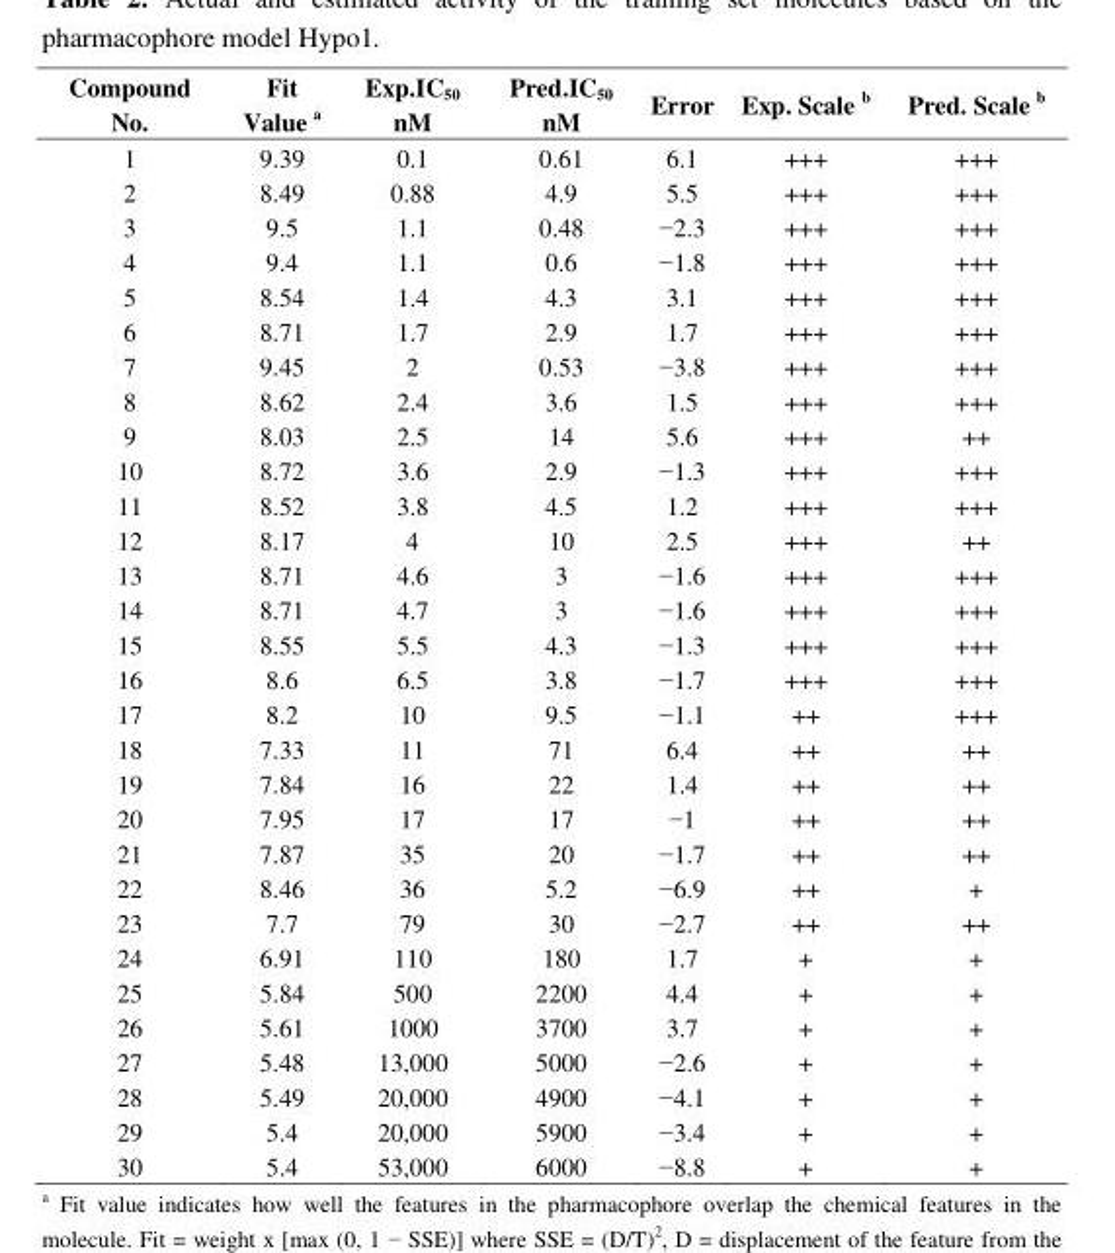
<table><thead><tr><td>Compound No.</td><td>Fit Value a</td><td>Exp.IC<sub>50</sub> nM</td><td>Pred.IC<sub>50</sub> nM</td><td>Error</td><td>Exp. Scale b</td><td>Pred. Scale b</td></tr></thead><tbody><tr><td>1</td><td>9.39</td><td>0.1</td><td>0.61</td><td>6.1</td><td>+++</td><td>+++</td></tr><tr><td>2</td><td>8.49</td><td>0.88</td><td>4.9</td><td>5.5</td><td>+++</td><td>+++</td></tr><tr><td>3</td><td>9.5</td><td>1.1</td><td>0.48</td><td>−2.3</td><td>+++</td><td>+++</td></tr><tr><td>4</td><td>9.4</td><td>1.1</td><td>0.6</td><td>−1.8</td><td>+++</td><td>+++</td></tr><tr><td>5</td><td>8.54</td><td>1.4</td><td>4.3</td><td>3.1</td><td>+++</td><td>+++</td></tr><tr><td>6</td><td>8.71</td><td>1.7</td><td>2.9</td><td>1.7</td><td>+++</td><td>+++</td></tr><tr><td>7</td><td>9.45</td><td>2</td><td>0.53</td><td>−3.8</td><td>+++</td><td>+++</td></tr><tr><td>8</td><td>8.62</td><td>2.4</td><td>3.6</td><td>1.5</td><td>+++</td><td>+++</td></tr><tr><td>9</td><td>8.03</td><td>2.5</td><td>14</td><td>5.6</td><td>+++</td><td>++</td></tr><tr><td>10</td><td>8.72</td><td>3.6</td><td>2.9</td><td>−1.3</td><td>+++</td><td>+++</td></tr><tr><td>11</td><td>8.52</td><td>3.8</td><td>4.5</td><td>1.2</td><td>+++</td><td>+++</td></tr><tr><td>12</td><td>8.17</td><td>4</td><td>10</td><td>2.5</td><td>+++</td><td>++</td></tr><tr><td>13</td><td>8.71</td><td>4.6</td><td>3</td><td>−1.6</td><td>+++</td><td>+++</td></tr><tr><td>14</td><td>8.71</td><td>4.7</td><td>3</td><td>−1.6</td><td>+++</td><td>+++</td></tr><tr><td>15</td><td>8.55</td><td>5.5</td><td>4.3</td><td>−1.3</td><td>+++</td><td>+++</td></tr><tr><td>16</td><td>8.6</td><td>6.5</td><td>3.8</td><td>−1.7</td><td>+++</td><td>+++</td></tr><tr><td>17</td><td>8.2</td><td>10</td><td>9.5</td><td>−1.1</td><td>++</td><td>+++</td></tr><tr><td>18</td><td>7.33</td><td>11</td><td>71</td><td>6.4</td><td>++</td><td>++</td></tr><tr><td>19</td><td>7.84</td><td>16</td><td>22</td><td>1.4</td><td>++</td><td>++</td></tr><tr><td>20</td><td>7.95</td><td>17</td><td>17</td><td>−1</td><td>++</td><td>++</td></tr><tr><td>21</td><td>7.87</td><td>35</td><td>20</td><td>−1.7</td><td>++</td><td>++</td></tr><tr><td>22</td><td>8.46</td><td>36</td><td>5.2</td><td>−6.9</td><td>++</td><td>+</td></tr><tr><td>23</td><td>7.7</td><td>79</td><td>30</td><td>−2.7</td><td>++</td><td>++</td></tr><tr><td>24</td><td>6.91</td><td>110</td><td>180</td><td>1.7</td><td>+</td><td>+</td></tr><tr><td>25</td><td>5.84</td><td>500</td><td>2200</td><td>4.4</td><td>+</td><td>+</td></tr><tr><td>26</td><td>5.61</td><td>1000</td><td>3700</td><td>3.7</td><td>+</td><td>+</td></tr><tr><td>27</td><td>5.48</td><td>13,000</td><td>5000</td><td>−2.6</td><td>+</td><td>+</td></tr><tr><td>28</td><td>5.49</td><td>20,000</td><td>4900</td><td>−4.1</td><td>+</td><td>+</td></tr><tr><td>29</td><td>5.4</td><td>20,000</td><td>5900</td><td>−3.4</td><td>+</td><td>+</td></tr><tr><td>30</td><td>5.4</td><td>53,000</td><td>6000</td><td>−8.8</td><td>+</td><td>+</td></tr></tbody></table>